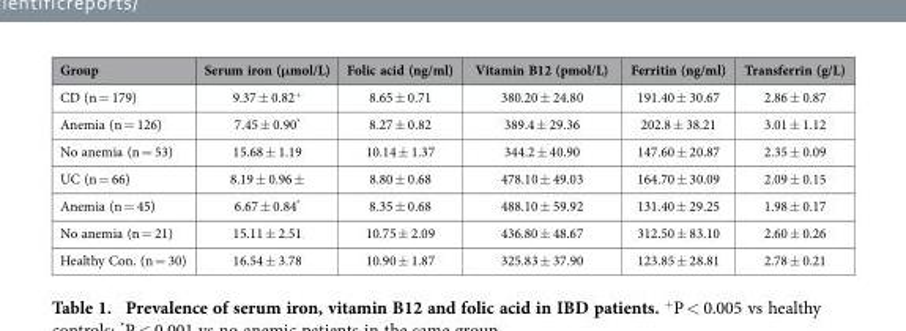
<table><thead><tr><td>Group</td><td>Serum iron (μmol/L)</td><td>Folic acid (ng/ml)</td><td>Vitamin B12 (pmol/L)</td><td>Ferritin (ng/ml)</td><td>Transferrin (g/L)</td></tr></thead><tbody><tr><td>CD (n = 179)</td><td>9.37 ± 0.82<sup>+</sup></td><td>8.65 ± 0.71</td><td>380.20 ± 24.80</td><td>191.40 ± 30.67</td><td>2.86 ± 0.87</td></tr><tr><td>Anemia (n = 126)</td><td>7.45 ± 0.90*</td><td>8.27 ± 0.82</td><td>389.4 ± 29.36</td><td>202.8 ± 38.21</td><td>3.01 ± 1.12</td></tr><tr><td>No anemia (n = 53)</td><td>15.68 ± 1.19</td><td>10.14 ± 1.37</td><td>344.2 ± 40.90</td><td>147.60 ± 20.87</td><td>2.35 ± 0.09</td></tr><tr><td>UC (n = 66)</td><td>8.19 ± 0.96 ±</td><td>8.80 ± 0.68</td><td>478.10 ± 49.03</td><td>164.70 ± 30.09</td><td>2.09 ± 0.15</td></tr><tr><td>Anemia (n = 45)</td><td>6.67 ± 0.84*</td><td>8.35 ± 0.68</td><td>488.10 ± 59.92</td><td>131.40 ± 29.25</td><td>1.98 ± 0.17</td></tr><tr><td>No anemia (n = 21)</td><td>15.11 ± 2.51</td><td>10.75 ± 2.09</td><td>436.80 ± 48.67</td><td>312.50 ± 83.10</td><td>2.60 ± 0.26</td></tr><tr><td>Healthy Con. (n = 30)</td><td>16.54 ± 3.78</td><td>10.90 ± 1.87</td><td>325.83 ± 37.90</td><td>123.85 ± 28.81</td><td>2.78 ± 0.21</td></tr></tbody></table>